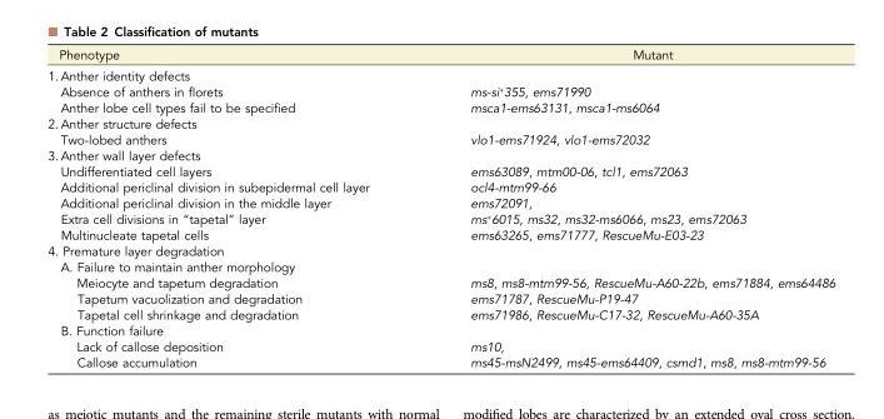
<table><thead><tr><td>Phenotype</td><td>Mutant</td></tr></thead><tbody><tr><td colspan="2">1. Anther identity defects</td></tr><tr><td>Absence of anthers in florets</td><td>ms-si*355, ems71990</td></tr><tr><td>Anther lobe cell types fail to be specified</td><td>msca1-ems63131, msca1-ms6064</td></tr><tr><td colspan="2">2. Anther structure defects</td></tr><tr><td>Two-lobed anthers</td><td>vlo1-ems71924, vlo1-ems72032</td></tr><tr><td colspan="2">3. Anther wall layer defects</td></tr><tr><td>Undifferentiated cell layers</td><td>ems63089, mtm00-06, tcl1, ems72063</td></tr><tr><td>Additional periclinal division in subepidermal cell layer</td><td>ocl4-mtm99-66</td></tr><tr><td>Additional periclinal division in the middle layer</td><td>ems72091,</td></tr><tr><td>Extra cell divisions in “tapetal” layer</td><td>ms*6015, ms32, ms32-ms6066, ms23, ems72063</td></tr><tr><td>Multinucleate tapetal cells</td><td>ems63265, ems71777, RescueMu-E03-23</td></tr><tr><td colspan="2">4. Premature layer degradation</td></tr><tr><td colspan="2">A. Failure to maintain anther morphology</td></tr><tr><td>Meiocyte and tapetum degradation</td><td>ms8, ms8-mtm99-56, RescueMu-A60-22b, ems71884, ems64486</td></tr><tr><td>Tapetum vacuolization and degradation</td><td>ems71787, RescueMu-P19-47</td></tr><tr><td>Tapetal cell shrinkage and degradation</td><td>ems71986, RescueMu-C17-32, RescueMu-A60-35A</td></tr><tr><td colspan="2">B. Function failure</td></tr><tr><td>Lack of callose deposition</td><td>ms10,</td></tr><tr><td>Callose accumulation</td><td>ms45-msN2499, ms45-ems64409, csmd1, ms8, ms8-mtm99-56</td></tr></tbody></table>